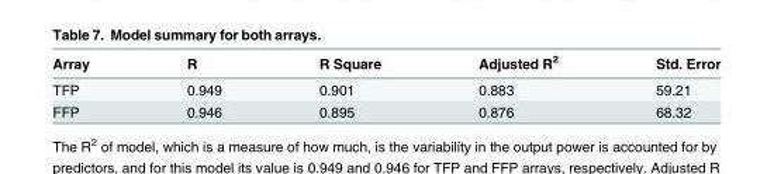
<table><thead><tr><td>Array</td><td>R</td><td>R Square</td><td>Adjusted R<sup>2</sup></td><td>Std. Error</td></tr></thead><tbody><tr><td>TFP</td><td>0.949</td><td>0.901</td><td>0.883</td><td>59.21</td></tr><tr><td>FFP</td><td>0.946</td><td>0.895</td><td>0.876</td><td>68.32</td></tr></tbody></table>